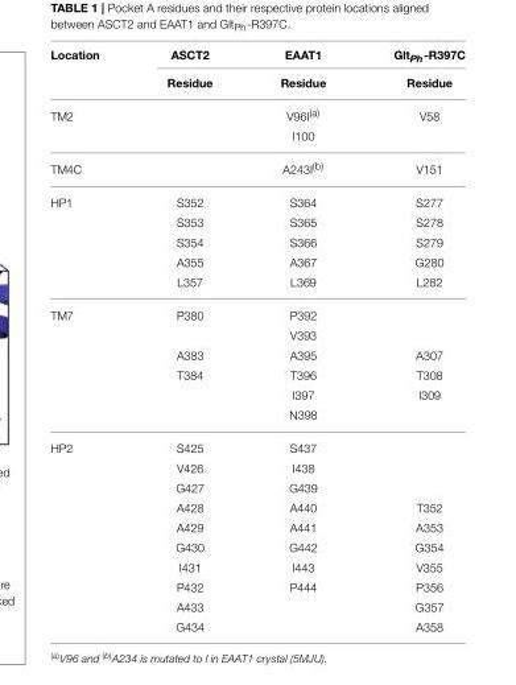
<table><thead><tr><td rowspan="2">Location</td><td rowspan="2">ASCT2 Residue</td><td rowspan="2">EAAT1 Residue</td><td rowspan="2">Glt<sub>Ph</sub>-R397C Residue</td></tr><tr></tr></thead><tbody><tr><td rowspan="2">TM2</td><td></td><td>V96I<sup>(a)</sup></td><td>V58</td></tr><tr><td></td><td>I100</td><td></td></tr><tr><td>TM4C</td><td></td><td>A243I<sup>(b)</sup></td><td>V151</td></tr><tr><td rowspan="5">HP1</td><td>S352</td><td>S364</td><td>S277</td></tr><tr><td>S353</td><td>S365</td><td>S278</td></tr><tr><td>S354</td><td>S366</td><td>S279</td></tr><tr><td>A355</td><td>A367</td><td>G280</td></tr><tr><td>L357</td><td>L369</td><td>L282</td></tr><tr><td rowspan="6">TM7</td><td>P380</td><td>P392</td><td></td></tr><tr><td></td><td>V393</td><td></td></tr><tr><td>A383</td><td>A395</td><td>A307</td></tr><tr><td>T384</td><td>T396</td><td>T308</td></tr><tr><td></td><td>I397</td><td>I309</td></tr><tr><td></td><td>N398</td><td></td></tr><tr><td rowspan="10">HP2</td><td>S425</td><td>S437</td><td></td></tr><tr><td>V426</td><td>I438</td><td></td></tr><tr><td>G427</td><td>G439</td><td></td></tr><tr><td>A428</td><td>A440</td><td>T352</td></tr><tr><td>A429</td><td>A441</td><td>A353</td></tr><tr><td>G430</td><td>G442</td><td>G354</td></tr><tr><td>I431</td><td>I443</td><td>V355</td></tr><tr><td>P432</td><td>P444</td><td>P356</td></tr><tr><td>A433</td><td></td><td>G357</td></tr><tr><td>G434</td><td></td><td>A358</td></tr></tbody></table>